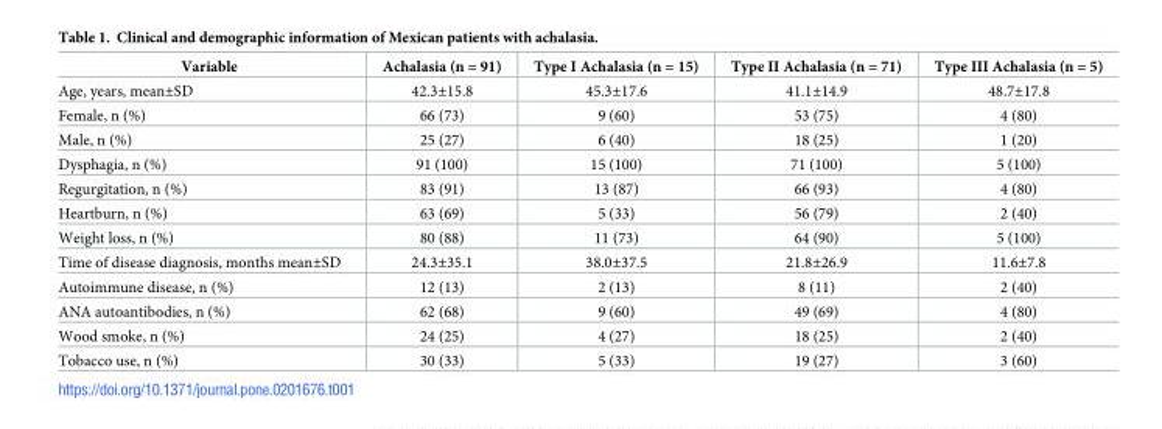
<table><thead><tr><td>Variable</td><td>Achalasia (n = 91)</td><td>Type I Achalasia (n = 15)</td><td>Type II Achalasia (n = 71)</td><td>Type III Achalasia (n = 5)</td></tr></thead><tbody><tr><td>Age, years, mean±SD</td><td>42.3±15.8</td><td>45.3±17.6</td><td>41.1±14.9</td><td>48.7±17.8</td></tr><tr><td>Female, n (%)</td><td>66 (73)</td><td>9 (60)</td><td>53 (75)</td><td>4 (80)</td></tr><tr><td>Male, n (%)</td><td>25 (27)</td><td>6 (40)</td><td>18 (25)</td><td>1 (20)</td></tr><tr><td>Dysphagia, n (%)</td><td>91 (100)</td><td>15 (100)</td><td>71 (100)</td><td>5 (100)</td></tr><tr><td>Regurgitation, n (%)</td><td>83 (91)</td><td>13 (87)</td><td>66 (93)</td><td>4 (80)</td></tr><tr><td>Heartburn, n (%)</td><td>63 (69)</td><td>5 (33)</td><td>56 (79)</td><td>2 (40)</td></tr><tr><td>Weight loss, n (%)</td><td>80 (88)</td><td>11 (73)</td><td>64 (90)</td><td>5 (100)</td></tr><tr><td>Time of disease diagnosis, months mean±SD</td><td>24.3±35.1</td><td>38.0±37.5</td><td>21.8±26.9</td><td>11.6±7.8</td></tr><tr><td>Autoimmune disease, n (%)</td><td>12 (13)</td><td>2 (13)</td><td>8 (11)</td><td>2 (40)</td></tr><tr><td>ANA autoantibodies, n (%)</td><td>62 (68)</td><td>9 (60)</td><td>49 (69)</td><td>4 (80)</td></tr><tr><td>Wood smoke, n (%)</td><td>24 (25)</td><td>4 (27)</td><td>18 (25)</td><td>2 (40)</td></tr><tr><td>Tobacco use, n (%)</td><td>30 (33)</td><td>5 (33)</td><td>19 (27)</td><td>3 (60)</td></tr></tbody></table>